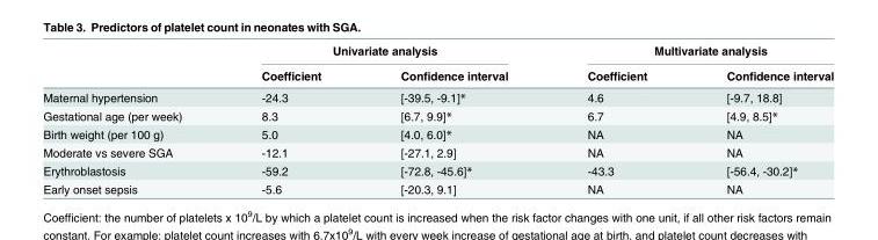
<table><thead><tr><td rowspan="2"></td><td colspan="2">Univariate analysis</td><td colspan="2">Multivariate analysis</td></tr><tr><td>Coefficient</td><td>Confidence interval</td><td>Coefficient</td><td>Confidence interval</td></tr></thead><tbody><tr><td>Maternal hypertension</td><td>-24.3</td><td>[-39.5, -9.1]*</td><td>4.6</td><td>[-9.7, 18.8]</td></tr><tr><td>Gestational age (per week)</td><td>8.3</td><td>[6.7, 9.9]*</td><td>6.7</td><td>[4.9, 8.5]*</td></tr><tr><td>Birth weight (per 100 g)</td><td>5.0</td><td>[4.0, 6.0]*</td><td>NA</td><td>NA</td></tr><tr><td>Moderate vs severe SGA</td><td>-12.1</td><td>[-27.1, 2.9]</td><td>NA</td><td>NA</td></tr><tr><td>Erythroblastosis</td><td>-59.2</td><td>[-72.8, -45.6]*</td><td>-43.3</td><td>[-56.4, -30.2]*</td></tr><tr><td>Early onset sepsis</td><td>-5.6</td><td>[-20.3, 9.1]</td><td>NA</td><td>NA</td></tr></tbody></table>